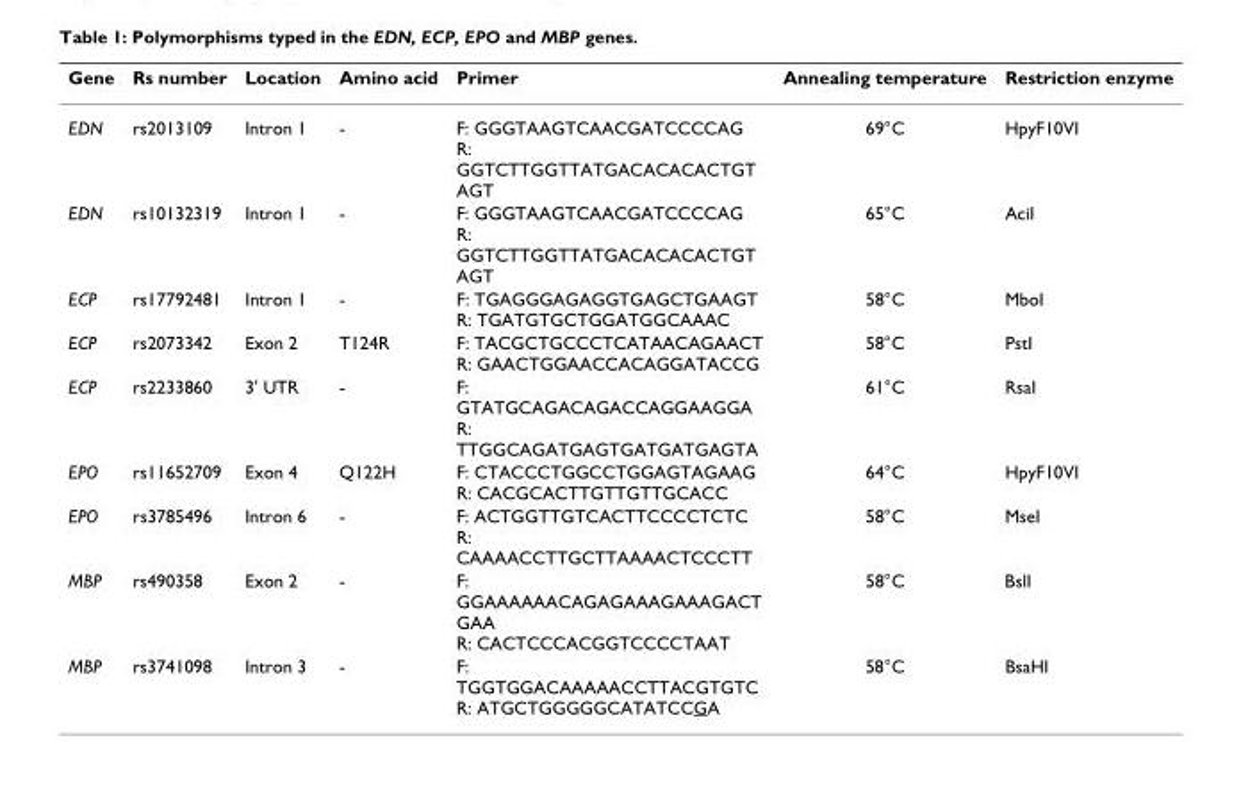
<table><thead><tr><td>Gene</td><td>Rs number</td><td>Location</td><td>Amino acid</td><td>Primer</td><td>Annealing temperature</td><td>Restriction enzyme</td></tr></thead><tbody><tr><td>EDN</td><td>rs2013109</td><td>Intron 1</td><td>-</td><td>F: GGGTAAGTCAACGATCCCCAG R: GGTCTTGGTTATGACACACACTGT AGT</td><td>69°C</td><td>HpyF10VI</td></tr><tr><td>EDN</td><td>rs10132319</td><td>Intron 1</td><td>-</td><td>F: GGGTAAGTCAACGATCCCCAG R: GGTCTTGGTTATGACACACACTGT AGT</td><td>65°C</td><td>AciI</td></tr><tr><td>ECP</td><td>rs17792481</td><td>Intron 1</td><td>-</td><td>F: TGAGGGAGAGGTGAGCTGAAGT R: TGATGTGCTGGATGGCAAAC</td><td>58°C</td><td>MboI</td></tr><tr><td>ECP</td><td>rs2073342</td><td>Exon 2</td><td>T124R</td><td>F: TACGCTGCCCTCATAACAGAACT R: GAACTGGAACCACAGGATACCG</td><td>58°C</td><td>PstI</td></tr><tr><td>ECP</td><td>rs2233860</td><td>3&#x27; UTR</td><td>-</td><td>F: GTATGCAGACAGACCAGGAAGGA R: TTGGCAGATGAGTGATGATGAGTA</td><td>61°C</td><td>RsaI</td></tr><tr><td>EPO</td><td>rs11652709</td><td>Exon 4</td><td>Q122H</td><td>F: CTACCCTGGCCTGGAGTAGAAG R: CACGCACTTGTTGTTGCACC</td><td>64°C</td><td>HpyF10VI</td></tr><tr><td>EPO</td><td>rs3785496</td><td>Intron 6</td><td>-</td><td>F: ACTGGTTGTCACTTCCCCTCTC R: CAAAACCTTGCTTAAAACTCCCTT</td><td>58°C</td><td>MseI</td></tr><tr><td>MBP</td><td>rs490358</td><td>Exon 2</td><td>-</td><td>F: GGAAAAAACAGAGAAAGAAAGACT GAA R: CACTCCCACGGTCCCCTAAT</td><td>58°C</td><td>BslI</td></tr><tr><td>MBP</td><td>rs3741098</td><td>Intron 3</td><td>-</td><td>F: TGGTGGACAAAAACCTTACGTGTC R: ATGCTGGGGGCATATCCGA</td><td>58°C</td><td>BsaHI</td></tr></tbody></table>